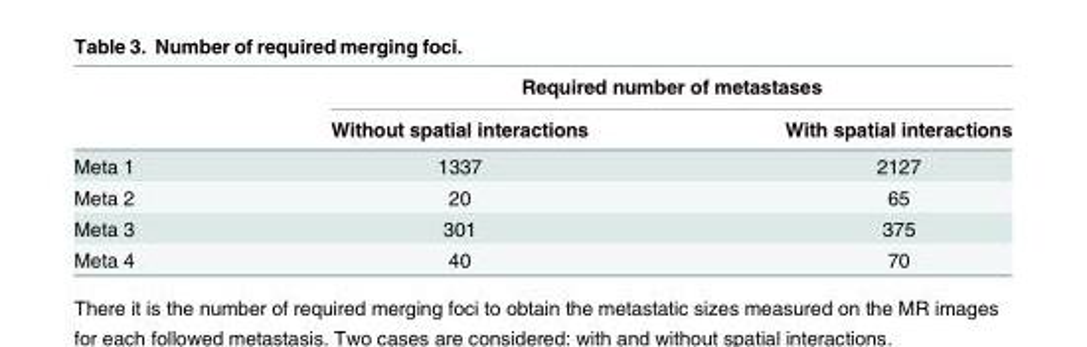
<table><thead><tr><td rowspan="2"></td><td colspan="2">Required number of metastases</td></tr><tr><td>Without spatial interactions</td><td>With spatial interactions</td></tr></thead><tbody><tr><td>Meta 1</td><td>1337</td><td>2127</td></tr><tr><td>Meta 2</td><td>20</td><td>65</td></tr><tr><td>Meta 3</td><td>301</td><td>375</td></tr><tr><td>Meta 4</td><td>40</td><td>70</td></tr></tbody></table>